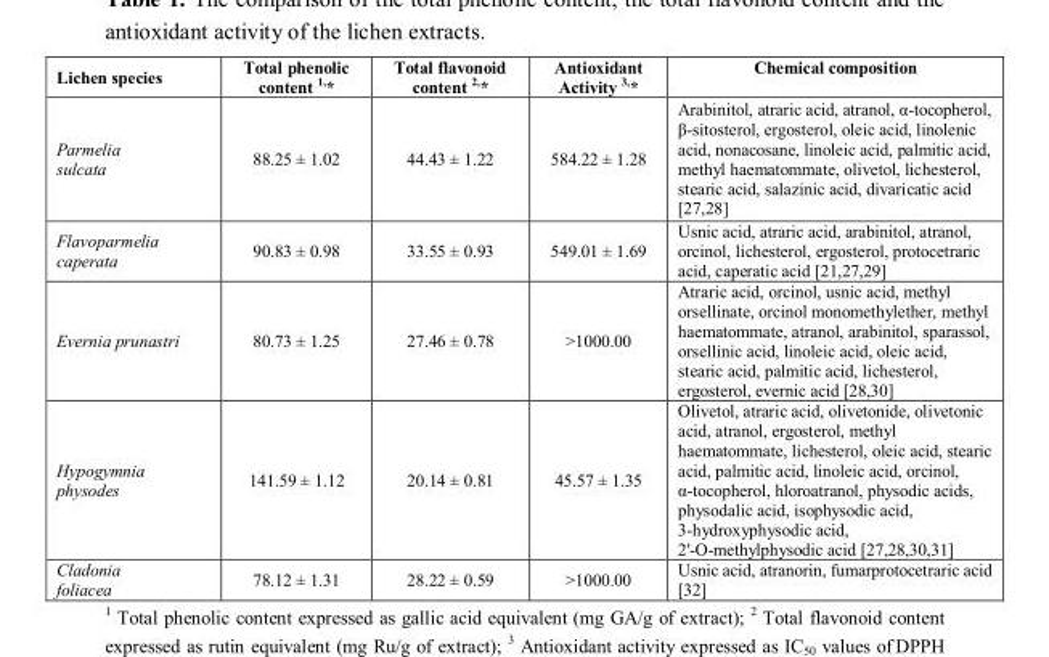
<table><thead><tr><td>Lichen species</td><td>Total phenolic content <sup>1,*</sup></td><td>Total flavonoid content <sup>2,*</sup></td><td>Antioxidant Activity <sup>3,*</sup></td><td>Chemical composition</td></tr></thead><tbody><tr><td>Parmelia sulcata</td><td>88.25 ± 1.02</td><td>44.43 ± 1.22</td><td>584.22 ± 1.28</td><td>Arabinitol, atraric acid, atranol, α-tocopherol, β-sitosterol, ergosterol, oleic acid, linolenic acid, nonacosane, linoleic acid, palmitic acid, methyl haematommate, olivetol, lichesterol, stearic acid, salazinic acid, divaricatic acid [27,28]</td></tr><tr><td>Flavoparmelia caperata</td><td>90.83 ± 0.98</td><td>33.55 ± 0.93</td><td>549.01 ± 1.69</td><td>Usnic acid, atraric acid, arabinitol, atranol, orcinol, lichesterol, ergosterol, protocetraric acid, caperatic acid [21,27,29]</td></tr><tr><td>Evernia prunastri</td><td>80.73 ± 1.25</td><td>27.46 ± 0.78</td><td>&gt;1000.00</td><td>Atraric acid, orcinol, usnic acid, methyl orsellinate, orcinol monomethylether, methyl haematommate, atranol, arabinitol, sparassol, orsellinic acid, linoleic acid, oleic acid, stearic acid, palmitic acid, lichesterol, ergosterol, evernic acid [28,30]</td></tr><tr><td>Hypogymnia physodes</td><td>141.59 ± 1.12</td><td>20.14 ± 0.81</td><td>45.57 ± 1.35</td><td>Olivetol, atraric acid, olivetonide, olivetonic acid, atranol, ergosterol, methyl haematommate, lichesterol, oleic acid, stearic acid, palmitic acid, linoleic acid, orcinol, α-tocopherol, hloroatranol, physodic acids, physodalic acid, isophysodic acid, 3-hydroxyphysodic acid, 2&#x27;-O-methylphysodic acid [27,28,30,31]</td></tr><tr><td>Cladonia foliacea</td><td>78.12 ± 1.31</td><td>28.22 ± 0.59</td><td>&gt;1000.00</td><td>Usnic acid, atranorin, fumarprotocetraric acid [32]</td></tr></tbody></table>